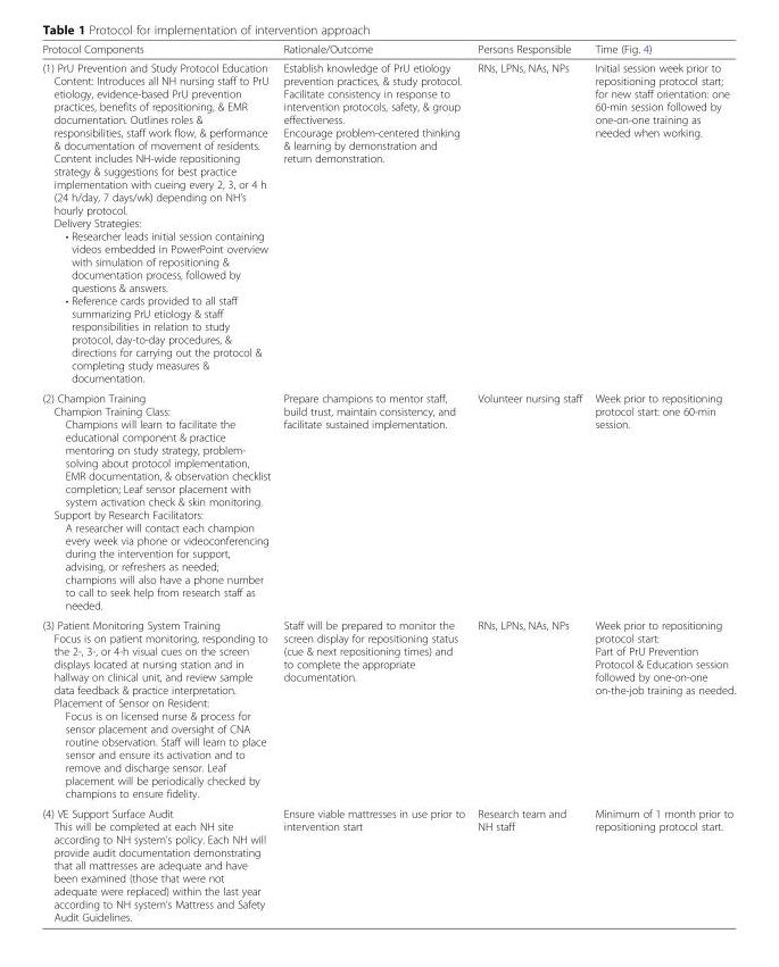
<table><thead><tr><td>Protocol Components</td><td>Rationale/Outcome</td><td>Persons Responsible</td><td>Time (Fig. 4)</td></tr></thead><tbody><tr><td>(1) PrU Prevention and Study Protocol Education Content: Introduces all NH nursing staff to PrU etiology, evidence-based PrU prevention practices, benefits of repositioning, &amp; EMR documentation. Outlines roles &amp; responsibilities, staff work flow, &amp; performance &amp; documentation of movement of residents. Content includes NH-wide repositioning strategy &amp; suggestions for best practice implementation with cueing every 2, 3, or 4 h (24 h/day, 7 days/wk) depending on NH’s hourly protocol. Delivery Strategies: • Researcher leads initial session containing videos embedded in PowerPoint overview with simulation of repositioning &amp; documentation process, followed by questions &amp; answers. • Reference cards provided to all staff summarizing PrU etiology &amp; staff responsibilities in relation to study protocol, day-to-day procedures, &amp; directions for carrying out the protocol &amp; completing study measures &amp; documentation.</td><td>Establish knowledge of PrU etiology prevention practices, &amp; study protocol. Facilitate consistency in response to intervention protocols, safety, &amp; group effectiveness. Encourage problem-centered thinking &amp; learning by demonstration and return demonstration.</td><td>RNs, LPNs, NAs, NPs</td><td>Initial session week prior to repositioning protocol start; for new staff orientation: one 60-min session followed by one-on-one training as needed when working.</td></tr><tr><td>(2) Champion Training Champion Training Class: Champions will learn to facilitate the educational component &amp; practice mentoring on study strategy, problem- solving about protocol implementation, EMR documentation, &amp; observation checklist completion; Leaf sensor placement with system activation check &amp; skin monitoring. Support by Research Facilitators: A researcher will contact each champion every week via phone or videoconferencing during the intervention for support, advising, or refreshers as needed; champions will also have a phone number to call to seek help from research staff as needed.</td><td>Prepare champions to mentor staff, build trust, maintain consistency, and facilitate sustained implementation.</td><td>Volunteer nursing staff</td><td>Week prior to repositioning protocol start: one 60-min session.</td></tr><tr><td>(3) Patient Monitoring System Training Focus is on patient monitoring, responding to the 2-, 3-, or 4-h visual cues on the screen displays located at nursing station and in hallway on clinical unit, and review sample data feedback &amp; practice interpretation. Placement of Sensor on Resident: Focus is on licensed nurse &amp; process for sensor placement and oversight of CNA routine observation. Staff will learn to place sensor and ensure its activation and to remove and discharge sensor. Leaf placement will be periodically checked by champions to ensure fidelity.</td><td>Staff will be prepared to monitor the screen display for repositioning status (cue &amp; next repositioning times) and to complete the appropriate documentation.</td><td>RNs, LPNs, NAs, NPs</td><td>Week prior to repositioning protocol start: Part of PrU Prevention Protocol &amp; Education session followed by one-on-one on-the-job training as needed.</td></tr><tr><td>(4) VE Support Surface Audit This will be completed at each NH site according to NH system’s policy. Each NH will provide audit documentation demonstrating that all mattresses are adequate and have been examined (those that were not adequate were replaced) within the last year according to NH system’s Mattress and Safety Audit Guidelines.</td><td>Ensure viable mattresses in use prior to intervention start</td><td>Research team and NH staff</td><td>Minimum of 1 month prior to repositioning protocol start.</td></tr></tbody></table>